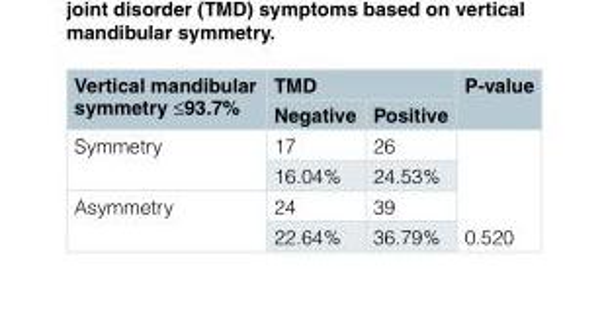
<table><thead><tr><td rowspan="2">Vertical mandibular symmetry ≤93.7%</td><td colspan="2">TMD</td><td rowspan="2">P-value</td></tr><tr><td>Negative</td><td>Positive</td></tr></thead><tbody><tr><td rowspan="2">Symmetry</td><td>17</td><td>26</td><td rowspan="4">0.520</td></tr><tr><td>16.04%</td><td>24.53%</td></tr><tr><td rowspan="2">Asymmetry</td><td>24</td><td>39</td></tr><tr><td>22.64%</td><td>36.79%</td></tr></tbody></table>